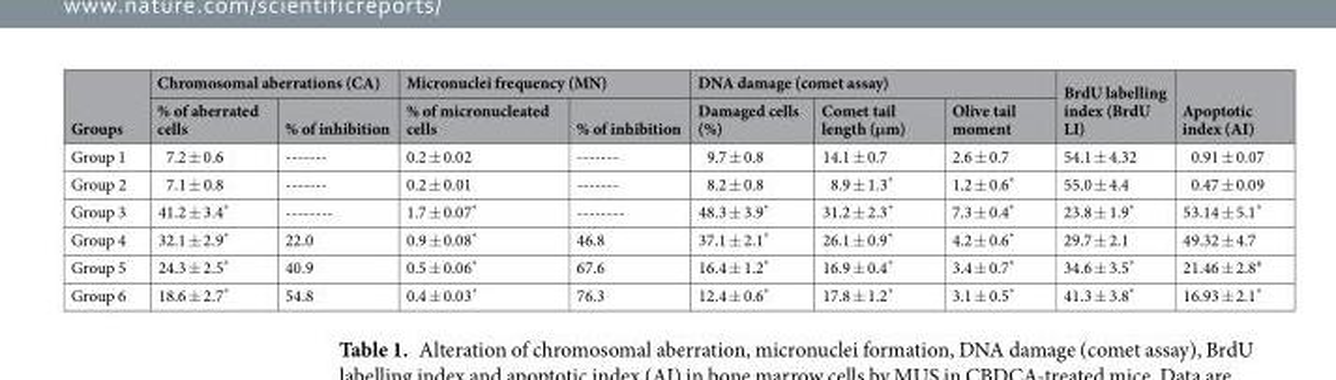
<table><thead><tr><td rowspan="2">Groups</td><td colspan="2">Chromosomal aberrations (CA)</td><td colspan="2">Micronuclei frequency (MN)</td><td colspan="3">DNA damage (comet assay)</td><td rowspan="2">BrdU labelling index (BrdU LI)</td><td rowspan="2">Apoptotic index (AI)</td></tr><tr><td>% of aberrated cells</td><td>% of inhibition</td><td>% of micronucleated cells</td><td>% of inhibition</td><td>Damaged cells (%)</td><td>Comet tail length (μm)</td><td>Olive tail moment</td></tr></thead><tbody><tr><td>Group 1</td><td>7.2 ± 0.6</td><td>-------</td><td>0.2 ± 0.02</td><td>-------</td><td>9.7 ± 0.8</td><td>14.1 ± 0.7</td><td>2.6 ± 0.7</td><td>54.1 ± 4.32</td><td>0.91 ± 0.07</td></tr><tr><td>Group 2</td><td>7.1 ± 0.8</td><td>-------</td><td>0.2 ± 0.01</td><td>-------</td><td>8.2 ± 0.8</td><td>8.9 ± 1.3*</td><td>1.2 ± 0.6*</td><td>55.0 ± 4.4</td><td>0.47 ± 0.09</td></tr><tr><td>Group 3</td><td>41.2 ± 3.4*</td><td>--------</td><td>1.7 ± 0.07*</td><td>--------</td><td>48.3 ± 3.9*</td><td>31.2 ± 2.3*</td><td>7.3 ± 0.4*</td><td>23.8 ± 1.9*</td><td>53.14 ± 5.1*</td></tr><tr><td>Group 4</td><td>32.1 ± 2.9*</td><td>22.0</td><td>0.9 ± 0.08*</td><td>46.8</td><td>37.1 ± 2.1*</td><td>26.1 ± 0.9*</td><td>4.2 ± 0.6*</td><td>29.7 ± 2.1</td><td>49.32 ± 4.7</td></tr><tr><td>Group 5</td><td>24.3 ± 2.5*</td><td>40.9</td><td>0.5 ± 0.06*</td><td>67.6</td><td>16.4 ± 1.2*</td><td>16.9 ± 0.4*</td><td>3.4 ± 0.7*</td><td>34.6 ± 3.5*</td><td>21.46 ± 2.8<sup>#</sup></td></tr><tr><td>Group 6</td><td>18.6 ± 2.7*</td><td>54.8</td><td>0.4 ± 0.03*</td><td>76.3</td><td>12.4 ± 0.6*</td><td>17.8 ± 1.2*</td><td>3.1 ± 0.5*</td><td>41.3 ± 3.8*</td><td>16.93 ± 2.1*</td></tr></tbody></table>